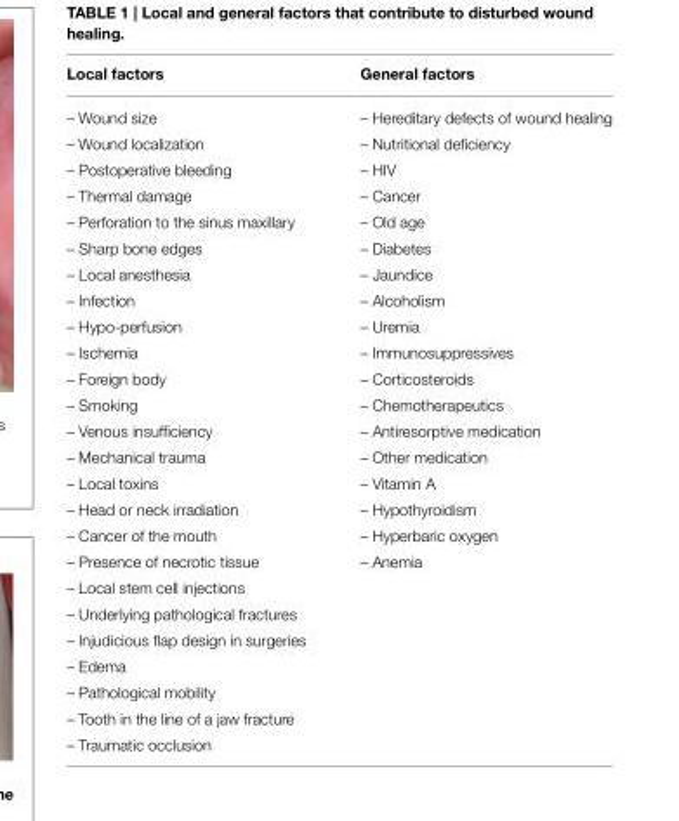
<table><thead><tr><td>Local factors</td><td>General factors</td></tr></thead><tbody><tr><td>– Wound size</td><td>– Hereditary defects of wound healing</td></tr><tr><td>– Wound localization</td><td>– Nutritional deficiency</td></tr><tr><td>– Postoperative bleeding</td><td>– HIV</td></tr><tr><td>– Thermal damage</td><td>– Cancer</td></tr><tr><td>– Perforation to the sinus maxillary</td><td>– Old age</td></tr><tr><td>– Sharp bone edges</td><td>– Diabetes</td></tr><tr><td>– Local anesthesia</td><td>– Jaundice</td></tr><tr><td>– Infection</td><td>– Alcoholism</td></tr><tr><td>– Hypo-perfusion</td><td>– Uremia</td></tr><tr><td>– Ischemia</td><td>– Immunosuppressives</td></tr><tr><td>– Foreign body</td><td>– Corticosteroids</td></tr><tr><td>– Smoking</td><td>– Chemotherapeutics</td></tr><tr><td>– Venous insufficiency</td><td>– Antiresorptive medication</td></tr><tr><td>– Mechanical trauma</td><td>– Other medication</td></tr><tr><td>– Local toxins</td><td>– Vitamin A</td></tr><tr><td>– Head or neck irradiation</td><td>– Hypothyroidism</td></tr><tr><td>– Cancer of the mouth</td><td>– Hyperbaric oxygen</td></tr><tr><td>– Presence of necrotic tissue</td><td>– Anemia</td></tr><tr><td colspan="2">– Local stem cell injections</td></tr><tr><td colspan="2">– Underlying pathological fractures</td></tr><tr><td colspan="2">– Injudicious flap design in surgeries</td></tr><tr><td colspan="2">– Edema</td></tr><tr><td colspan="2">– Pathological mobility</td></tr><tr><td colspan="2">– Tooth in the line of a jaw fracture</td></tr><tr><td>– Traumatic occlusion</td><td></td></tr></tbody></table>